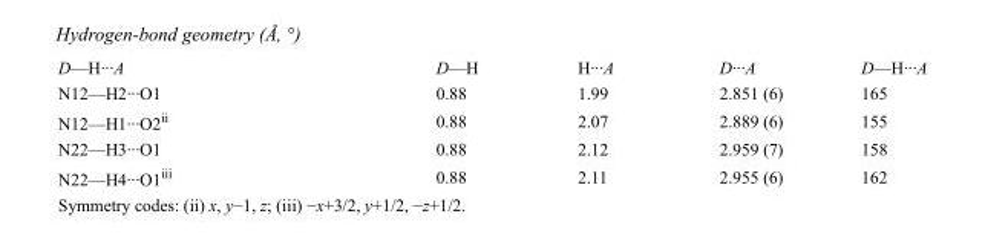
<table><tbody><tr><td>D—H···A</td><td>D—H</td><td>H···A</td><td>D···A</td><td>D—H···A</td></tr><tr><td>N12—H2···O1</td><td>0.88</td><td>1.99</td><td>2.851 (6)</td><td>165</td></tr><tr><td>N12—H1···O2<sup>ii</sup></td><td>0.88</td><td>2.07</td><td>2.889 (6)</td><td>155</td></tr><tr><td>N22—H3···O1</td><td>0.88</td><td>2.12</td><td>2.959 (7)</td><td>158</td></tr><tr><td>N22—H4···O1<sup>iii</sup></td><td>0.88</td><td>2.11</td><td>2.955 (6)</td><td>162</td></tr></tbody></table>